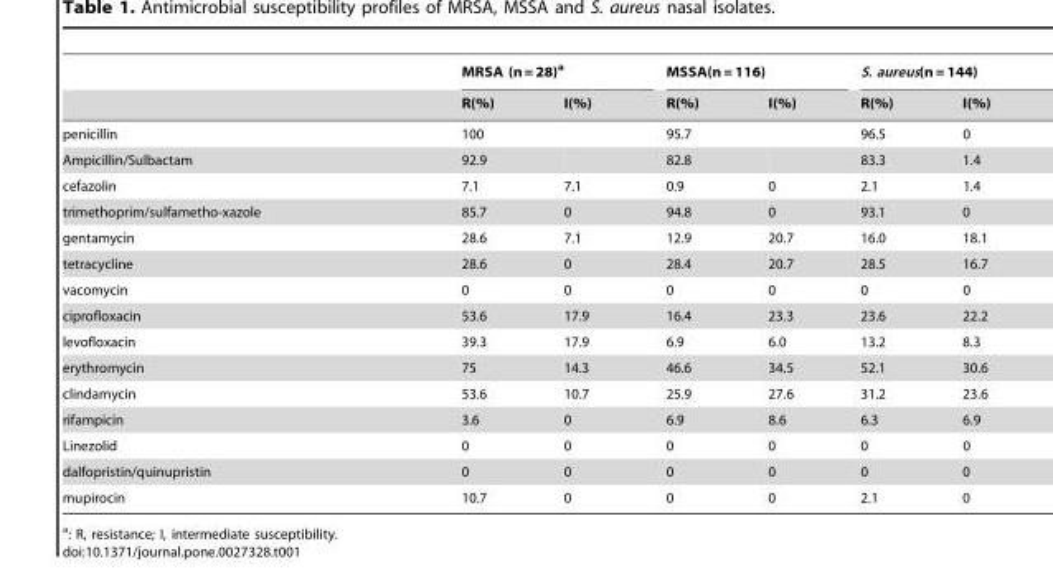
<table><thead><tr><td rowspan="2"></td><td colspan="2">MRSA (n = 28)<sup>a</sup></td><td colspan="2">MSSA(n = 116)</td><td colspan="2">S. aureus(n = 144)</td></tr><tr><td>R(%)</td><td>I(%)</td><td>R(%)</td><td>I(%)</td><td>R(%)</td><td>I(%)</td></tr></thead><tbody><tr><td>penicillin</td><td>100</td><td></td><td>95.7</td><td></td><td>96.5</td><td>0</td></tr><tr><td>Ampicillin/Sulbactam</td><td>92.9</td><td></td><td>82.8</td><td></td><td>83.3</td><td>1.4</td></tr><tr><td>cefazolin</td><td>7.1</td><td>7.1</td><td>0.9</td><td>0</td><td>2.1</td><td>1.4</td></tr><tr><td>trimethoprim/sulfametho-xazole</td><td>85.7</td><td>0</td><td>94.8</td><td>0</td><td>93.1</td><td>0</td></tr><tr><td>gentamycin</td><td>28.6</td><td>7.1</td><td>12.9</td><td>20.7</td><td>16.0</td><td>18.1</td></tr><tr><td>tetracycline</td><td>28.6</td><td>0</td><td>28.4</td><td>20.7</td><td>28.5</td><td>16.7</td></tr><tr><td>vacomycin</td><td>0</td><td>0</td><td>0</td><td>0</td><td>0</td><td>0</td></tr><tr><td>ciprofloxacin</td><td>53.6</td><td>17.9</td><td>16.4</td><td>23.3</td><td>23.6</td><td>22.2</td></tr><tr><td>levofloxacin</td><td>39.3</td><td>17.9</td><td>6.9</td><td>6.0</td><td>13.2</td><td>8.3</td></tr><tr><td>erythromycin</td><td>75</td><td>14.3</td><td>46.6</td><td>34.5</td><td>52.1</td><td>30.6</td></tr><tr><td>clindamycin</td><td>53.6</td><td>10.7</td><td>25.9</td><td>27.6</td><td>31.2</td><td>23.6</td></tr><tr><td>rifampicin</td><td>3.6</td><td>0</td><td>6.9</td><td>8.6</td><td>6.3</td><td>6.9</td></tr><tr><td>Linezolid</td><td>0</td><td>0</td><td>0</td><td>0</td><td>0</td><td>0</td></tr><tr><td>dalfopristin/quinupristin</td><td>0</td><td>0</td><td>0</td><td>0</td><td>0</td><td>0</td></tr><tr><td>mupirocin</td><td>10.7</td><td>0</td><td>0</td><td>0</td><td>2.1</td><td>0</td></tr></tbody></table>